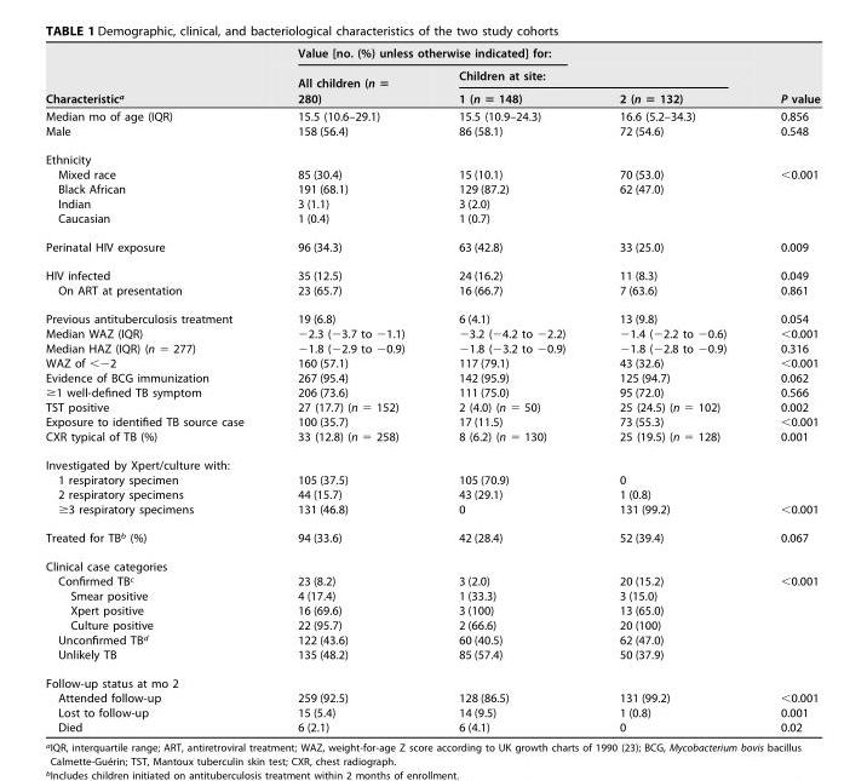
<table><thead><tr><td rowspan="3">Characteristic<sup>a</sup></td><td colspan="3">Value [no. (%) unless otherwise indicated] for:</td><td rowspan="3">P value</td></tr><tr><td rowspan="2">All children (n = 280)</td><td colspan="2">Children at site:</td></tr><tr><td>1 (n = 148)</td><td>2 (n = 132)</td></tr></thead><tbody><tr><td>Median mo of age (IQR)</td><td>15.5 (10.6–29.1)</td><td>15.5 (10.9–24.3)</td><td>16.6 (5.2–34.3)</td><td>0.856</td></tr><tr><td>Male</td><td>158 (56.4)</td><td>86 (58.1)</td><td>72 (54.6)</td><td>0.548</td></tr><tr><td colspan="5">Ethnicity</td></tr><tr><td>Mixed race</td><td>85 (30.4)</td><td>15 (10.1)</td><td>70 (53.0)</td><td>&lt;0.001</td></tr><tr><td>Black African</td><td>191 (68.1)</td><td>129 (87.2)</td><td>62 (47.0)</td><td></td></tr><tr><td>Indian</td><td>3 (1.1)</td><td>3 (2.0)</td><td></td><td></td></tr><tr><td>Caucasian</td><td>1 (0.4)</td><td>1 (0.7)</td><td></td><td></td></tr><tr><td>Perinatal HIV exposure</td><td>96 (34.3)</td><td>63 (42.8)</td><td>33 (25.0)</td><td>0.009</td></tr><tr><td>HIV infected</td><td>35 (12.5)</td><td>24 (16.2)</td><td>11 (8.3)</td><td>0.049</td></tr><tr><td>On ART at presentation</td><td>23 (65.7)</td><td>16 (66.7)</td><td>7 (63.6)</td><td>0.861</td></tr><tr><td>Previous antituberculosis treatment</td><td>19 (6.8)</td><td>6 (4.1)</td><td>13 (9.8)</td><td>0.054</td></tr><tr><td>Median WAZ (IQR)</td><td>−2.3 (−3.7 to −1.1)</td><td>−3.2 (−4.2 to −2.2)</td><td>−1.4 (−2.2 to −0.6)</td><td>&lt;0.001</td></tr><tr><td>Median HAZ (IQR) (n = 277)</td><td>−1.8 (−2.9 to −0.9)</td><td>−1.8 (−3.2 to −0.9)</td><td>−1.8 (−2.8 to −0.9)</td><td>0.316</td></tr><tr><td>WAZ of &lt;−2</td><td>160 (57.1)</td><td>117 (79.1)</td><td>43 (32.6)</td><td>&lt;0.001</td></tr><tr><td>Evidence of BCG immunization</td><td>267 (95.4)</td><td>142 (95.9)</td><td>125 (94.7)</td><td>0.062</td></tr><tr><td>≥1 well-defined TB symptom</td><td>206 (73.6)</td><td>111 (75.0)</td><td>95 (72.0)</td><td>0.566</td></tr><tr><td>TST positive</td><td>27 (17.7) (n = 152)</td><td>2 (4.0) (n = 50)</td><td>25 (24.5) (n = 102)</td><td>0.002</td></tr><tr><td>Exposure to identified TB source case</td><td>100 (35.7)</td><td>17 (11.5)</td><td>73 (55.3)</td><td>&lt;0.001</td></tr><tr><td>CXR typical of TB (%)</td><td>33 (12.8) (n = 258)</td><td>8 (6.2) (n = 130)</td><td>25 (19.5) (n = 128)</td><td>0.001</td></tr><tr><td colspan="5">Investigated by Xpert/culture with:</td></tr><tr><td>1 respiratory specimen</td><td>105 (37.5)</td><td>105 (70.9)</td><td>0</td><td></td></tr><tr><td>2 respiratory specimens</td><td>44 (15.7)</td><td>43 (29.1)</td><td>1 (0.8)</td><td></td></tr><tr><td>≥3 respiratory specimens</td><td>131 (46.8)</td><td>0</td><td>131 (99.2)</td><td>&lt;0.001</td></tr><tr><td>Treated for TB<sup>b</sup> (%)</td><td>94 (33.6)</td><td>42 (28.4)</td><td>52 (39.4)</td><td>0.067</td></tr><tr><td colspan="5">Clinical case categories</td></tr><tr><td>Confirmed TB<sup>c</sup></td><td>23 (8.2)</td><td>3 (2.0)</td><td>20 (15.2)</td><td>&lt;0.001</td></tr><tr><td>Smear positive</td><td>4 (17.4)</td><td>1 (33.3)</td><td>3 (15.0)</td><td></td></tr><tr><td>Xpert positive</td><td>16 (69.6)</td><td>3 (100)</td><td>13 (65.0)</td><td></td></tr><tr><td>Culture positive</td><td>22 (95.7)</td><td>2 (66.6)</td><td>20 (100)</td><td></td></tr><tr><td>Unconfirmed TB<sup>d</sup></td><td>122 (43.6)</td><td>60 (40.5)</td><td>62 (47.0)</td><td></td></tr><tr><td>Unlikely TB</td><td>135 (48.2)</td><td>85 (57.4)</td><td>50 (37.9)</td><td></td></tr><tr><td colspan="5">Follow-up status at mo 2</td></tr><tr><td>Attended follow-up</td><td>259 (92.5)</td><td>128 (86.5)</td><td>131 (99.2)</td><td>&lt;0.001</td></tr><tr><td>Lost to follow-up</td><td>15 (5.4)</td><td>14 (9.5)</td><td>1 (0.8)</td><td>0.001</td></tr><tr><td>Died</td><td>6 (2.1)</td><td>6 (4.1)</td><td>0</td><td>0.02</td></tr></tbody></table>